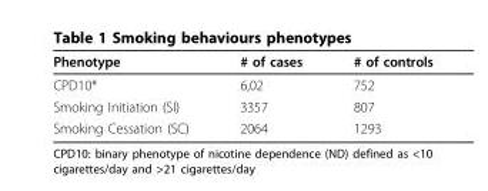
<table><thead><tr><td>Phenotype</td><td># of cases</td><td># of controls</td></tr></thead><tbody><tr><td>CPD10*</td><td>6,02</td><td>752</td></tr><tr><td>Smoking Initiation (SI)</td><td>3357</td><td>807</td></tr><tr><td>Smoking Cessation (SC)</td><td>2064</td><td>1293</td></tr></tbody></table>